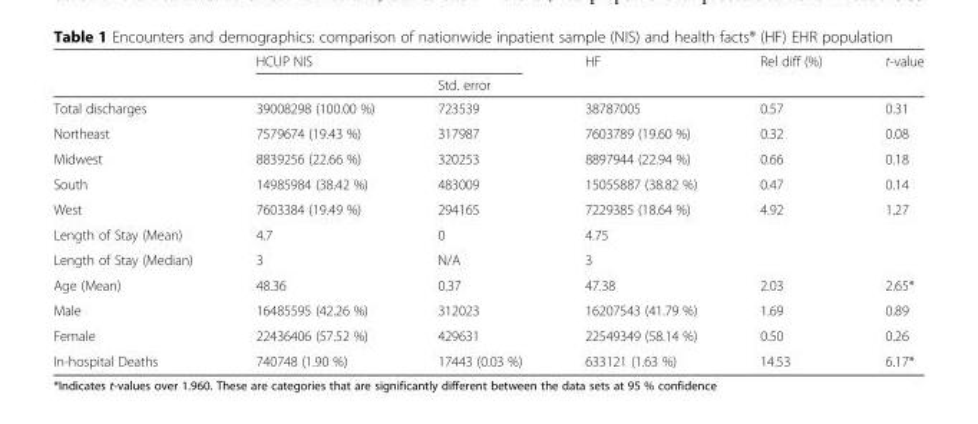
<table><thead><tr><td rowspan="2"></td><td colspan="2">HCUP NIS</td><td rowspan="2">HF</td><td rowspan="2">Rel diff (%)</td><td rowspan="2">t-value</td></tr><tr><td></td><td>Std. error</td></tr></thead><tbody><tr><td>Total discharges</td><td>39008298 (100.00 %)</td><td>723539</td><td>38787005</td><td>0.57</td><td>0.31</td></tr><tr><td>Northeast</td><td>7579674 (19.43 %)</td><td>317987</td><td>7603789 (19.60 %)</td><td>0.32</td><td>0.08</td></tr><tr><td>Midwest</td><td>8839256 (22.66 %)</td><td>320253</td><td>8897944 (22.94 %)</td><td>0.66</td><td>0.18</td></tr><tr><td>South</td><td>14985984 (38.42 %)</td><td>483009</td><td>15055887 (38.82 %)</td><td>0.47</td><td>0.14</td></tr><tr><td>West</td><td>7603384 (19.49 %)</td><td>294165</td><td>7229385 (18.64 %)</td><td>4.92</td><td>1.27</td></tr><tr><td>Length of Stay (Mean)</td><td>4.7</td><td>0</td><td>4.75</td><td></td><td></td></tr><tr><td>Length of Stay (Median)</td><td>3</td><td>N/A</td><td>3</td><td></td><td></td></tr><tr><td>Age (Mean)</td><td>48.36</td><td>0.37</td><td>47.38</td><td>2.03</td><td>2.65*</td></tr><tr><td>Male</td><td>16485595 (42.26 %)</td><td>312023</td><td>16207543 (41.79 %)</td><td>1.69</td><td>0.89</td></tr><tr><td>Female</td><td>22436406 (57.52 %)</td><td>429631</td><td>22549349 (58.14 %)</td><td>0.50</td><td>0.26</td></tr><tr><td>In-hospital Deaths</td><td>740748 (1.90 %)</td><td>17443 (0.03 %)</td><td>633121 (1.63 %)</td><td>14.53</td><td>6.17*</td></tr></tbody></table>